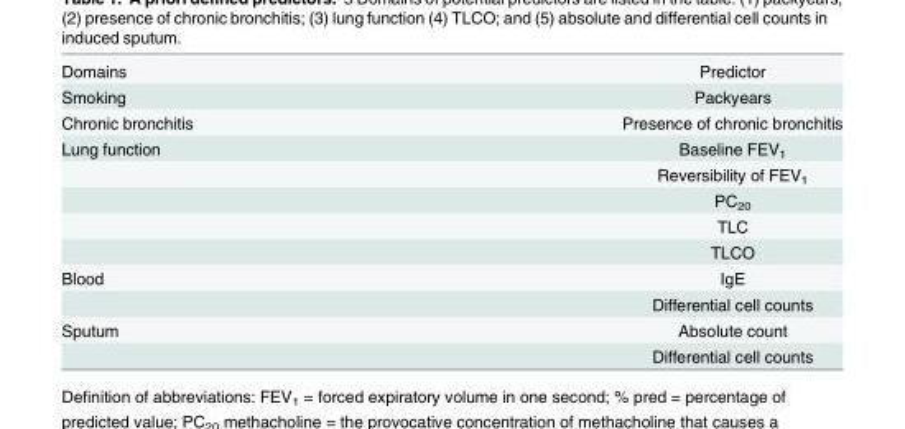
<table><tbody><tr><td>Domains</td><td>Predictor</td></tr><tr><td>Smoking</td><td>Packyears</td></tr><tr><td>Chronic bronchitis</td><td>Presence of chronic bronchitis</td></tr><tr><td rowspan="5">Lung function</td><td>Baseline FEV<sub>1</sub></td></tr><tr><td>Reversibility of FEV<sub>1</sub></td></tr><tr><td>PC<sub>20</sub></td></tr><tr><td>TLC</td></tr><tr><td>TLCO</td></tr><tr><td rowspan="2">Blood</td><td>IgE</td></tr><tr><td>Differential cell counts</td></tr><tr><td rowspan="2">Sputum</td><td>Absolute count</td></tr><tr><td>Differential cell counts</td></tr></tbody></table>